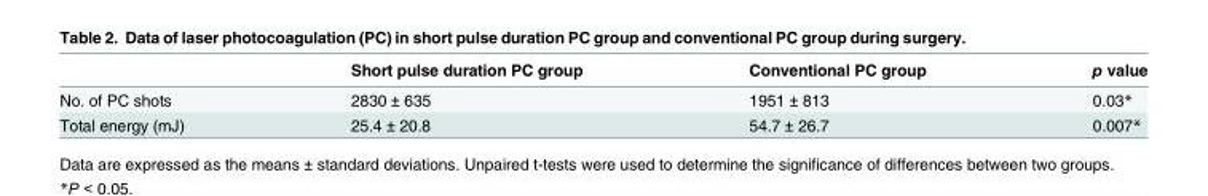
<table><thead><tr><td></td><td>Short pulse duration PC group</td><td>Conventional PC group</td><td>p value</td></tr></thead><tbody><tr><td>No. of PC shots</td><td>2830 ± 635</td><td>1951 ± 813</td><td>0.03*</td></tr><tr><td>Total energy (mJ)</td><td>25.4 ± 20.8</td><td>54.7 ± 26.7</td><td>0.007*</td></tr></tbody></table>